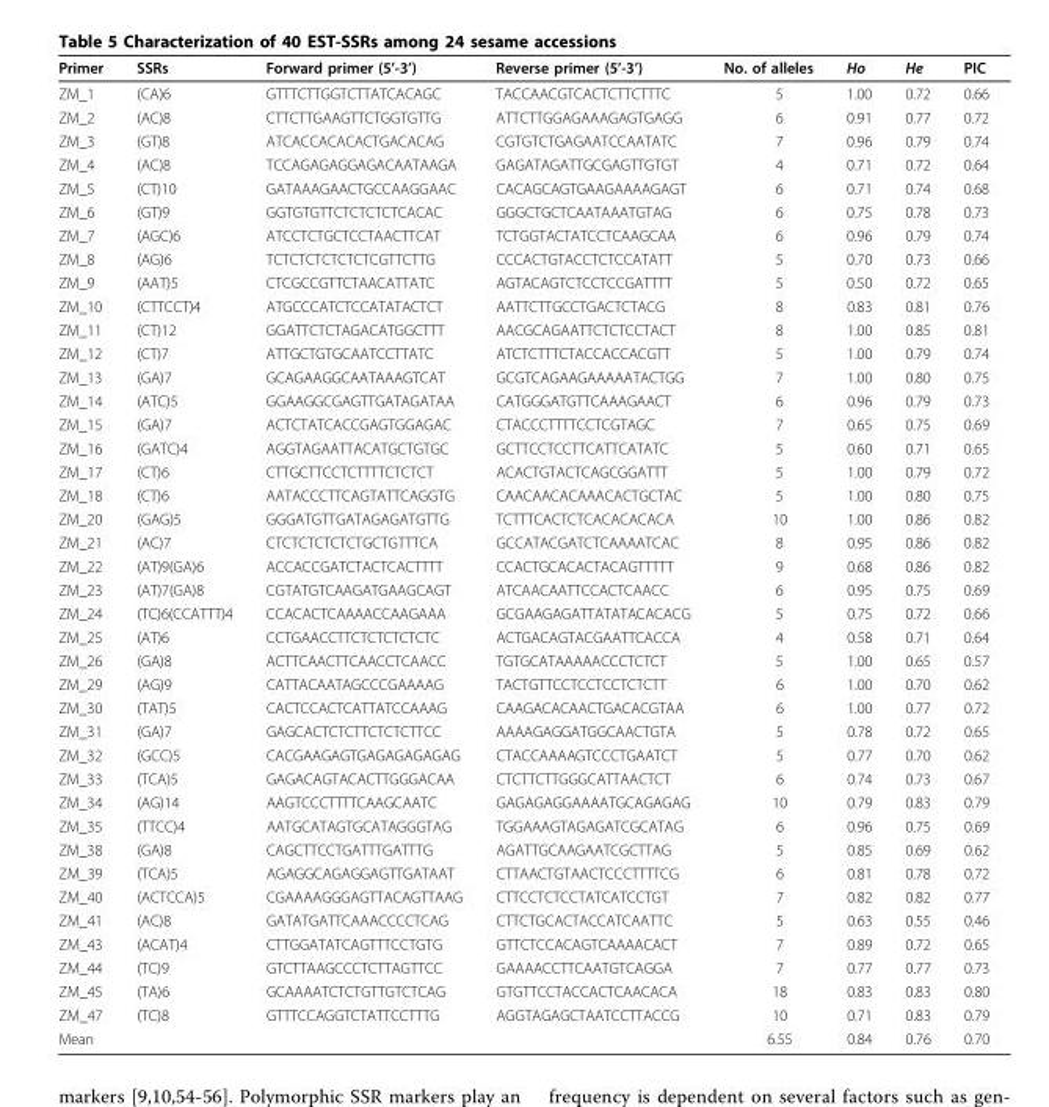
<table><thead><tr><td>Primer</td><td>SSRs</td><td>Forward primer (5’-3’)</td><td>Reverse primer (5’-3’)</td><td>No. of alleles</td><td>Ho</td><td>He</td><td>PIC</td></tr></thead><tbody><tr><td>ZM_1</td><td>(CA)6</td><td>GTTTCTTGGTCTTATCACAGC</td><td>TACCAACGTCACTCTTCTTTC</td><td>5</td><td>1.00</td><td>0.72</td><td>0.66</td></tr><tr><td>ZM_2</td><td>(AC)8</td><td>CTTCTTGAAGTTCTGGTGTTG</td><td>ATTCTTGGAGAAAGAGTGAGG</td><td>6</td><td>0.91</td><td>0.77</td><td>0.72</td></tr><tr><td>ZM_3</td><td>(GT)8</td><td>ATCACCACACACTGACACAG</td><td>CGTGTCTGAGAATCCAATATC</td><td>7</td><td>0.96</td><td>0.79</td><td>0.74</td></tr><tr><td>ZM_4</td><td>(AC)8</td><td>TCCAGAGAGGAGACAATAAGA</td><td>GAGATAGATTGCGAGTTGTGT</td><td>4</td><td>0.71</td><td>0.72</td><td>0.64</td></tr><tr><td>ZM_5</td><td>(CT)10</td><td>GATAAAGAACTGCCAAGGAAC</td><td>CACAGCAGTGAAGAAAAGAGT</td><td>6</td><td>0.71</td><td>0.74</td><td>0.68</td></tr><tr><td>ZM_6</td><td>(GT)9</td><td>GGTGTGTTCTCTCTCTCACAC</td><td>GGGCTGCTCAATAAATGTAG</td><td>6</td><td>0.75</td><td>0.78</td><td>0.73</td></tr><tr><td>ZM_7</td><td>(AGC)6</td><td>ATCCTCTGCTCCTAACTTCAT</td><td>TCTGGTACTATCCTCAAGCAA</td><td>6</td><td>0.96</td><td>0.79</td><td>0.74</td></tr><tr><td>ZM_8</td><td>(AG)6</td><td>TCTCTCTCTCTCTCGTTCTTG</td><td>CCCACTGTACCTCTCCATATT</td><td>5</td><td>0.70</td><td>0.73</td><td>0.66</td></tr><tr><td>ZM_9</td><td>(AAT)5</td><td>CTCGCCGTTCTAACATTATC</td><td>AGTACAGTCTCCTCCGATTTT</td><td>5</td><td>0.50</td><td>0.72</td><td>0.65</td></tr><tr><td>ZM_10</td><td>(CTTCCT)4</td><td>ATGCCCATCTCCATATACTCT</td><td>AATTCTTGCCTGACTCTACG</td><td>8</td><td>0.83</td><td>0.81</td><td>0.76</td></tr><tr><td>ZM_11</td><td>(CT)12</td><td>GGATTCTCTAGACATGGCTTT</td><td>AACGCAGAATTCTCTCCTACT</td><td>8</td><td>1.00</td><td>0.85</td><td>0.81</td></tr><tr><td>ZM_12</td><td>(CT)7</td><td>ATTGCTGTGCAATCCTTATC</td><td>ATCTCTTTCTACCACCACGTT</td><td>5</td><td>1.00</td><td>0.79</td><td>0.74</td></tr><tr><td>ZM_13</td><td>(GA)7</td><td>GCAGAAGGCAATAAAGTCAT</td><td>GCGTCAGAAGAAAAATACTGG</td><td>7</td><td>1.00</td><td>0.80</td><td>0.75</td></tr><tr><td>ZM_14</td><td>(ATC)5</td><td>GGAAGGCGAGTTGATAGATAA</td><td>CATGGGATGTTCAAAGAACT</td><td>6</td><td>0.96</td><td>0.79</td><td>0.73</td></tr><tr><td>ZM_15</td><td>(GA)7</td><td>ACTCTATCACCGAGTGGAGAC</td><td>CTACCCTTTTCCTCGTAGC</td><td>7</td><td>0.65</td><td>0.75</td><td>0.69</td></tr><tr><td>ZM_16</td><td>(GATC)4</td><td>AGGTAGAATTACATGCTGTGC</td><td>GCTTCCTCCTTCATTCATATC</td><td>5</td><td>0.60</td><td>0.71</td><td>0.65</td></tr><tr><td>ZM_17</td><td>(CT)6</td><td>CTTGCTTCCTCTTTTCTCTCT</td><td>ACACTGTACTCAGCGGATTT</td><td>5</td><td>1.00</td><td>0.79</td><td>0.72</td></tr><tr><td>ZM_18</td><td>(CT)6</td><td>AATACCCTTCAGTATTCAGGTG</td><td>CAACAACACAAACACTGCTAC</td><td>5</td><td>1.00</td><td>0.80</td><td>0.75</td></tr><tr><td>ZM_20</td><td>(GAG)5</td><td>GGGATGTTGATAGAGATGTTG</td><td>TCTTTCACTCTCACACACACA</td><td>10</td><td>1.00</td><td>0.86</td><td>0.82</td></tr><tr><td>ZM_21</td><td>(AC)7</td><td>CTCTCTCTCTCTGCTGTTTCA</td><td>GCCATACGATCTCAAAATCAC</td><td>8</td><td>0.95</td><td>0.86</td><td>0.82</td></tr><tr><td>ZM_22</td><td>(AT)9(GA)6</td><td>ACCACCGATCTACTCACTTTT</td><td>CCACTGCACACTACAGTTTTT</td><td>9</td><td>0.68</td><td>0.86</td><td>0.82</td></tr><tr><td>ZM_23</td><td>(AT)7(GA)8</td><td>CGTATGTCAAGATGAAGCAGT</td><td>ATCAACAATTCCACTCAACC</td><td>6</td><td>0.95</td><td>0.75</td><td>0.69</td></tr><tr><td>ZM_24</td><td>(TC)6(CCATTT)4</td><td>CCACACTCAAAACCAAGAAA</td><td>GCGAAGAGATTATATACACACG</td><td>5</td><td>0.75</td><td>0.72</td><td>0.66</td></tr><tr><td>ZM_25</td><td>(AT)6</td><td>CCTGAACCTTCTCTCTCTCTC</td><td>ACTGACAGTACGAATTCACCA</td><td>4</td><td>0.58</td><td>0.71</td><td>0.64</td></tr><tr><td>ZM_26</td><td>(GA)8</td><td>ACTTCAACTTCAACCTCAACC</td><td>TGTGCATAAAAACCCTCTCT</td><td>5</td><td>1.00</td><td>0.65</td><td>0.57</td></tr><tr><td>ZM_29</td><td>(AG)9</td><td>CATTACAATAGCCCGAAAAG</td><td>TACTGTTCCTCCTCCTCTCTT</td><td>6</td><td>1.00</td><td>0.70</td><td>0.62</td></tr><tr><td>ZM_30</td><td>(TAT)5</td><td>CACTCCACTCATTATCCAAAG</td><td>CAAGACACAACTGACACGTAA</td><td>6</td><td>1.00</td><td>0.77</td><td>0.72</td></tr><tr><td>ZM_31</td><td>(GA)7</td><td>GAGCACTCTCTTCTCTCTTCC</td><td>AAAAGAGGATGGCAACTGTA</td><td>5</td><td>0.78</td><td>0.72</td><td>0.65</td></tr><tr><td>ZM_32</td><td>(GCC)5</td><td>CACGAAGAGTGAGAGAGAGAG</td><td>CTACCAAAAGTCCCTGAATCT</td><td>5</td><td>0.77</td><td>0.70</td><td>0.62</td></tr><tr><td>ZM_33</td><td>(TCA)5</td><td>GAGACAGTACACTTGGGACAA</td><td>CTCTTCTTGGGCATTAACTCT</td><td>6</td><td>0.74</td><td>0.73</td><td>0.67</td></tr><tr><td>ZM_34</td><td>(AG)14</td><td>AAGTCCCTTTTCAAGCAATC</td><td>GAGAGAGGAAAATGCAGAGAG</td><td>10</td><td>0.79</td><td>0.83</td><td>0.79</td></tr><tr><td>ZM_35</td><td>(TTCC)4</td><td>AATGCATAGTGCATAGGGTAG</td><td>TGGAAAGTAGAGATCGCATAG</td><td>6</td><td>0.96</td><td>0.75</td><td>0.69</td></tr><tr><td>ZM_38</td><td>(GA)8</td><td>CAGCTTCCTGATTTGATTTG</td><td>AGATTGCAAGAATCGCTTAG</td><td>5</td><td>0.85</td><td>0.69</td><td>0.62</td></tr><tr><td>ZM_39</td><td>(TCA)5</td><td>AGAGGCAGAGGAGTTGATAAT</td><td>CTTAACTGTAACTCCCTTTTCG</td><td>6</td><td>0.81</td><td>0.78</td><td>0.72</td></tr><tr><td>ZM_40</td><td>(ACTCCA)5</td><td>CGAAAAGGGAGTTACAGTTAAG</td><td>CTTCCTCTCCTATCATCCTGT</td><td>7</td><td>0.82</td><td>0.82</td><td>0.77</td></tr><tr><td>ZM_41</td><td>(AC)8</td><td>GATATGATTCAAACCCCTCAG</td><td>CTTCTGCACTACCATCAATTC</td><td>5</td><td>0.63</td><td>0.55</td><td>0.46</td></tr><tr><td>ZM_43</td><td>(ACAT)4</td><td>CTTGGATATCAGTTTCCTGTG</td><td>GTTCTCCACAGTCAAAACACT</td><td>7</td><td>0.89</td><td>0.72</td><td>0.65</td></tr><tr><td>ZM_44</td><td>(TC)9</td><td>GTCTTAAGCCCTCTTAGTTCC</td><td>GAAAACCTTCAATGTCAGGA</td><td>7</td><td>0.77</td><td>0.77</td><td>0.73</td></tr><tr><td>ZM_45</td><td>(TA)6</td><td>GCAAAATCTCTGTTGTCTCAG</td><td>GTGTTCCTACCACTCAACACA</td><td>18</td><td>0.83</td><td>0.83</td><td>0.80</td></tr><tr><td>ZM_47</td><td>(TC)8</td><td>GTTTCCAGGTCTATTCCTTTG</td><td>AGGTAGAGCTAATCCTTACCG</td><td>10</td><td>0.71</td><td>0.83</td><td>0.79</td></tr><tr><td>Mean</td><td></td><td></td><td></td><td>6.55</td><td>0.84</td><td>0.76</td><td>0.70</td></tr></tbody></table>